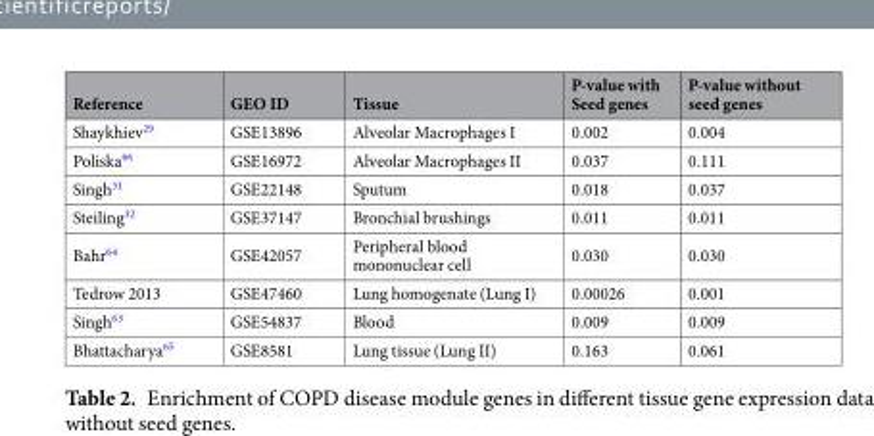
<table><thead><tr><td>Reference</td><td>GEO ID</td><td>Tissue</td><td>P-value with Seed genes</td><td>P-value without seed genes</td></tr></thead><tbody><tr><td>Shaykhiev<sup>29</sup></td><td>GSE13896</td><td>Alveolar Macrophages I</td><td>0.002</td><td>0.004</td></tr><tr><td>Poliska<sup>66</sup></td><td>GSE16972</td><td>Alveolar Macrophages II</td><td>0.037</td><td>0.111</td></tr><tr><td>Singh<sup>31</sup></td><td>GSE22148</td><td>Sputum</td><td>0.018</td><td>0.037</td></tr><tr><td>Steiling<sup>32</sup></td><td>GSE37147</td><td>Bronchial brushings</td><td>0.011</td><td>0.011</td></tr><tr><td>Bahr<sup>64</sup></td><td>GSE42057</td><td>Peripheral blood mononuclear cell</td><td>0.030</td><td>0.030</td></tr><tr><td>Tedrow 2013</td><td>GSE47460</td><td>Lung homogenate (Lung I)</td><td>0.00026</td><td>0.001</td></tr><tr><td>Singh<sup>63</sup></td><td>GSE54837</td><td>Blood</td><td>0.009</td><td>0.009</td></tr><tr><td>Bhattacharya<sup>65</sup></td><td>GSE8581</td><td>Lung tissue (Lung II)</td><td>0.163</td><td>0.061</td></tr></tbody></table>